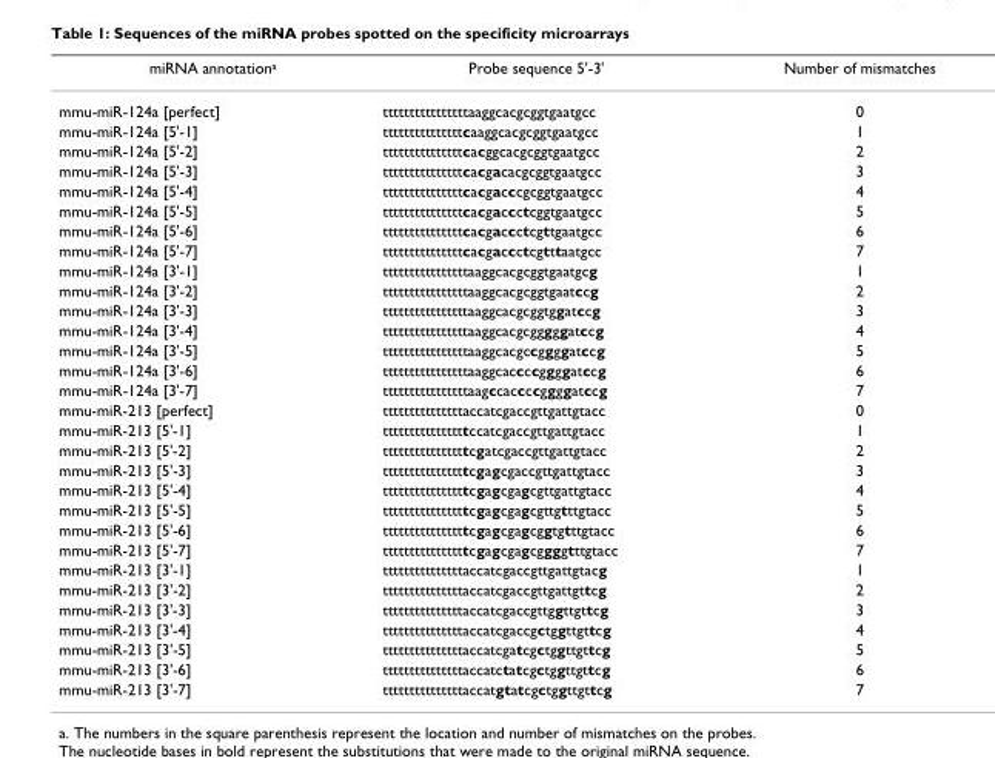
<table><thead><tr><td>miRNA annotationa</td><td>Probe sequence 5&#x27;-3&#x27;</td><td>Number of mismatches</td></tr></thead><tbody><tr><td>mmu-miR-124a [perfect]</td><td>ttttttttttttttttaaggcacgcggtgaatgcc</td><td>0</td></tr><tr><td>mmu-miR-124a [5&#x27;-1]</td><td>tttttttttttttttcaaggcacgcggtgaatgcc</td><td>1</td></tr><tr><td>mmu-miR-124a [5&#x27;-2]</td><td>tttttttttttttttcacggcacgcggtgaatgcc</td><td>2</td></tr><tr><td>mmu-miR-124a [5&#x27;-3]</td><td>tttttttttttttttcacgacacgcggtgaatgcc</td><td>3</td></tr><tr><td>mmu-miR-124a [5&#x27;-4]</td><td>tttttttttttttttcacgacccgcggtgaatgcc</td><td>4</td></tr><tr><td>mmu-miR-124a [5&#x27;-5]</td><td>tttttttttttttttcacgaccctcggtgaatgcc</td><td>5</td></tr><tr><td>mmu-miR-124a [5&#x27;-6]</td><td>tttttttttttttttcacgaccctcgttgaatgcc</td><td>6</td></tr><tr><td>mmu-miR-124a [5&#x27;-7]</td><td>tttttttttttttttcacgaccctcgtttaatgcc</td><td>7</td></tr><tr><td>mmu-miR-124a [3&#x27;-1]</td><td>ttttttttttttttttaaggcacgcggtgaatgcg</td><td>1</td></tr><tr><td>mmu-miR-124a [3&#x27;-2]</td><td>ttttttttttttttttaaggcacgcggtgaatccg</td><td>2</td></tr><tr><td>mmu-miR-124a [3&#x27;-3]</td><td>ttttttttttttttttaaggcacgcggtggatccg</td><td>3</td></tr><tr><td>mmu-miR-124a [3&#x27;-4]</td><td>ttttttttttttttttaaggcacgcgggggatccg</td><td>4</td></tr><tr><td>mmu-miR-124a [3&#x27;-5]</td><td>ttttttttttttttttaaggcacgccggggatccg</td><td>5</td></tr><tr><td>mmu-miR-124a [3&#x27;-6]</td><td>ttttttttttttttttaaggcaccccggggatccg</td><td>6</td></tr><tr><td>mmu-miR-124a [3&#x27;-7]</td><td>ttttttttttttttttaagccaccccggggatccg</td><td>7</td></tr><tr><td>mmu-miR-213 [perfect]</td><td>tttttttttttttttaccatcgaccgttgattgtacc</td><td>0</td></tr><tr><td>mmu-miR-213 [5&#x27;-1]</td><td>ttttttttttttttttccatcgaccgttgattgtacc</td><td>1</td></tr><tr><td>mmu-miR-213 [5&#x27;-2]</td><td>ttttttttttttttttcgatcgaccgttgattgtacc</td><td>2</td></tr><tr><td>mmu-miR-213 [5&#x27;-3]</td><td>ttttttttttttttttcgagcgaccgttgattgtacc</td><td>3</td></tr><tr><td>mmu-miR-213 [5&#x27;-4]</td><td>ttttttttttttttttcgagcgagcgttgattgtacc</td><td>4</td></tr><tr><td>mmu-miR-213 [5&#x27;-5]</td><td>ttttttttttttttttcgagcgagcgttgtttgtacc</td><td>5</td></tr><tr><td>mmu-miR-213 [5&#x27;-6]</td><td>ttttttttttttttttcgagcgagcggtgtttgtacc</td><td>6</td></tr><tr><td>mmu-miR-213 [5&#x27;-7]</td><td>ttttttttttttttttcgagcgagcggggtttgtacc</td><td>7</td></tr><tr><td>mmu-miR-213 [3&#x27;-1]</td><td>tttttttttttttttaccatcgaccgttgattgtacg</td><td>1</td></tr><tr><td>mmu-miR-213 [3&#x27;-2]</td><td>tttttttttttttttaccatcgaccgttgattgttcg</td><td>2</td></tr><tr><td>mmu-miR-213 [3&#x27;-3]</td><td>tttttttttttttttaccatcgaccgttggttgttcg</td><td>3</td></tr><tr><td>mmu-miR-213 [3&#x27;-4]</td><td>tttttttttttttttaccatcgaccgctggttgttcg</td><td>4</td></tr><tr><td>mmu-miR-213 [3&#x27;-5]</td><td>tttttttttttttttaccatcgatcgctggttgttcg</td><td>5</td></tr><tr><td>mmu-miR-213 [3&#x27;-6]</td><td>tttttttttttttttaccatctatcgctggttgttcg</td><td>6</td></tr><tr><td>mmu-miR-213 [3&#x27;-7]</td><td>tttttttttttttttaccatgtatcgctggttgttcg</td><td>7</td></tr></tbody></table>